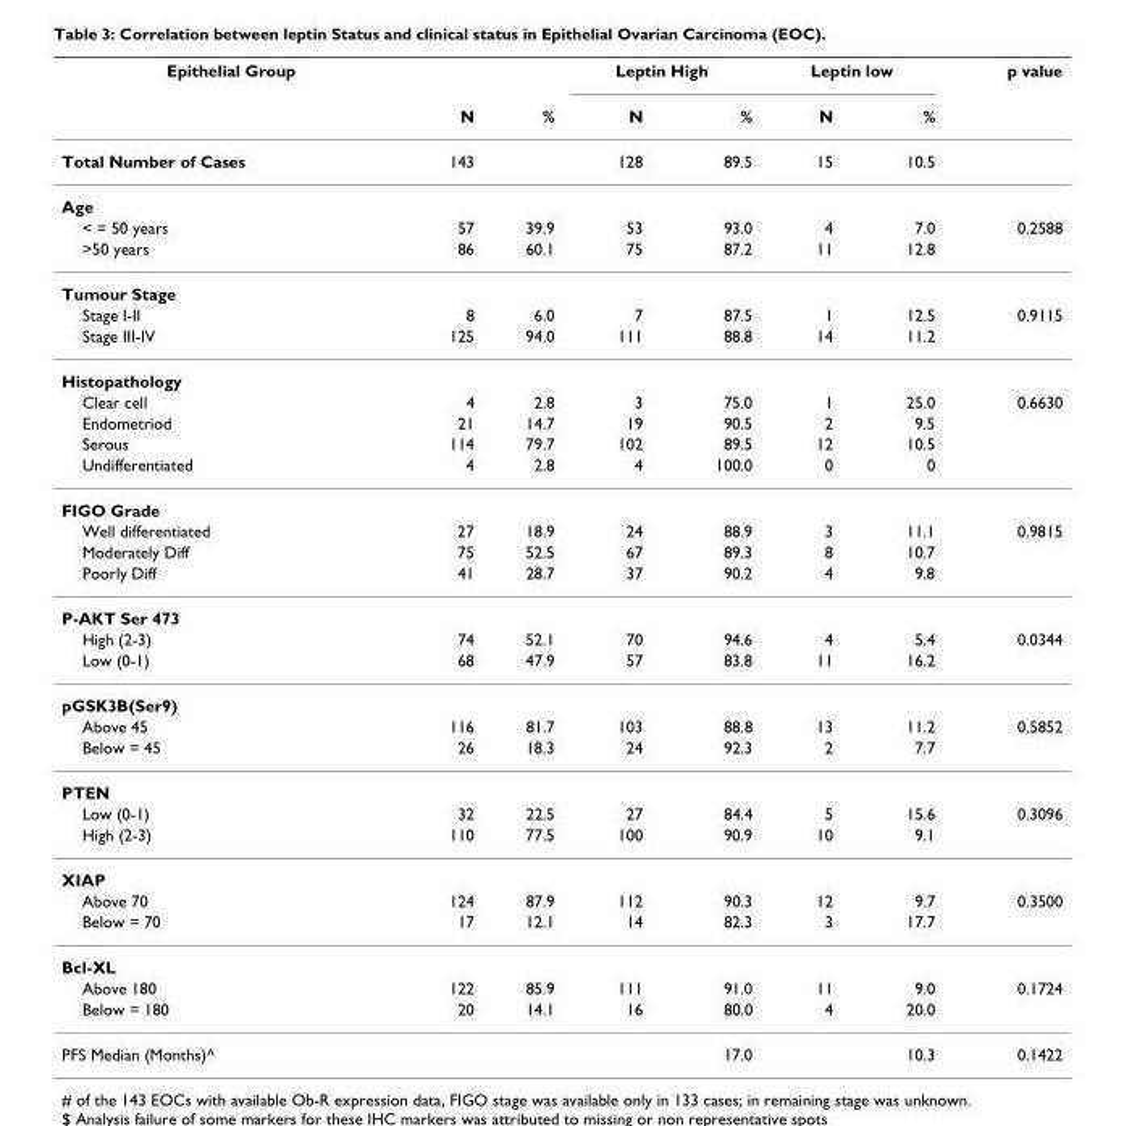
<table><thead><tr><td rowspan="2">Epithelial Group</td><td rowspan="2">N</td><td rowspan="2">%</td><td colspan="2">Leptin High</td><td colspan="2">Leptin low</td><td rowspan="2">p value</td></tr><tr><td>N</td><td>%</td><td>N</td><td>%</td></tr></thead><tbody><tr><td>Total Number of Cases</td><td>143</td><td></td><td>128</td><td>89.5</td><td>15</td><td>10.5</td><td></td></tr><tr><td colspan="8">Age</td></tr><tr><td>&lt; = 50 years</td><td>57</td><td>39.9</td><td>53</td><td>93.0</td><td>4</td><td>7.0</td><td>0.2588</td></tr><tr><td>&gt;50 years</td><td>86</td><td>60.1</td><td>75</td><td>87.2</td><td>11</td><td>12.8</td><td></td></tr><tr><td colspan="8">Tumour Stage</td></tr><tr><td>Stage I-II</td><td>8</td><td>6.0</td><td>7</td><td>87.5</td><td>1</td><td>12.5</td><td>0.9115</td></tr><tr><td>Stage III-IV</td><td>125</td><td>94.0</td><td>111</td><td>88.8</td><td>14</td><td>11.2</td><td></td></tr><tr><td colspan="8">Histopathology</td></tr><tr><td>Clear cell</td><td>4</td><td>2.8</td><td>3</td><td>75.0</td><td>1</td><td>25.0</td><td>0.6630</td></tr><tr><td>Endometriod</td><td>21</td><td>14.7</td><td>19</td><td>90.5</td><td>2</td><td>9.5</td><td></td></tr><tr><td>Serous</td><td>114</td><td>79.7</td><td>102</td><td>89.5</td><td>12</td><td>10.5</td><td></td></tr><tr><td>Undifferentiated</td><td>4</td><td>2.8</td><td>4</td><td>100.0</td><td>0</td><td>0</td><td></td></tr><tr><td colspan="8">FIGO Grade</td></tr><tr><td>Well differentiated</td><td>27</td><td>18.9</td><td>24</td><td>88.9</td><td>3</td><td>11.1</td><td>0.9815</td></tr><tr><td>Moderately Diff</td><td>75</td><td>52.5</td><td>67</td><td>89.3</td><td>8</td><td>10.7</td><td></td></tr><tr><td>Poorly Diff</td><td>41</td><td>28.7</td><td>37</td><td>90.2</td><td>4</td><td>9.8</td><td></td></tr><tr><td colspan="8">P-AKT Ser 473</td></tr><tr><td>High (2-3)</td><td>74</td><td>52.1</td><td>70</td><td>94.6</td><td>4</td><td>5.4</td><td>0.0344</td></tr><tr><td>Low (0-1)</td><td>68</td><td>47.9</td><td>57</td><td>83.8</td><td>11</td><td>16.2</td><td></td></tr><tr><td colspan="8">pGSK3B(Ser9)</td></tr><tr><td>Above 45</td><td>116</td><td>81.7</td><td>103</td><td>88.8</td><td>13</td><td>11.2</td><td>0.5852</td></tr><tr><td>Below = 45</td><td>26</td><td>18.3</td><td>24</td><td>92.3</td><td>2</td><td>7.7</td><td></td></tr><tr><td colspan="8">PTEN</td></tr><tr><td>Low (0-1)</td><td>32</td><td>22.5</td><td>27</td><td>84.4</td><td>5</td><td>15.6</td><td>0.3096</td></tr><tr><td>High (2-3)</td><td>110</td><td>77.5</td><td>100</td><td>90.9</td><td>10</td><td>9.1</td><td></td></tr><tr><td colspan="8">XIAP</td></tr><tr><td>Above 70</td><td>124</td><td>87.9</td><td>112</td><td>90.3</td><td>12</td><td>9.7</td><td>0.3500</td></tr><tr><td>Below = 70</td><td>17</td><td>12.1</td><td>14</td><td>82.3</td><td>3</td><td>17.7</td><td></td></tr><tr><td colspan="8">Bcl-XL</td></tr><tr><td>Above 180</td><td>122</td><td>85.9</td><td>111</td><td>91.0</td><td>11</td><td>9.0</td><td>0.1724</td></tr><tr><td>Below = 180</td><td>20</td><td>14.1</td><td>16</td><td>80.0</td><td>4</td><td>20.0</td><td></td></tr><tr><td>PFS Median (Months)^</td><td></td><td></td><td></td><td>17.0</td><td></td><td>10.3</td><td>0.1422</td></tr></tbody></table>